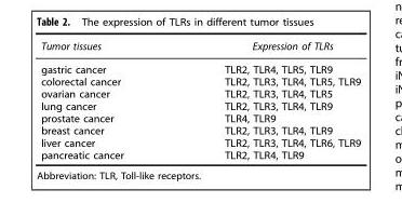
<table><thead><tr><td>Tumor tissues</td><td>Expression of TLRs</td></tr></thead><tbody><tr><td>gastric cancer</td><td>TLR2, TLR4, TLR5, TLR9</td></tr><tr><td>colorectal cancer</td><td>TLR2, TLR3, TLR4, TLR5, TLR9</td></tr><tr><td>ovarian cancer</td><td>TLR2, TLR3, TLR4, TLR5</td></tr><tr><td>lung cancer</td><td>TLR2, TLR3, TLR4, TLR9</td></tr><tr><td>prostate cancer</td><td>TLR4, TLR9</td></tr><tr><td>breast cancer</td><td>TLR2, TLR3, TLR4, TLR9</td></tr><tr><td>liver cancer</td><td>TLR2, TLR3, TLR4, TLR6, TLR9</td></tr><tr><td>pancreatic cancer</td><td>TLR2, TLR4, TLR9</td></tr></tbody></table>